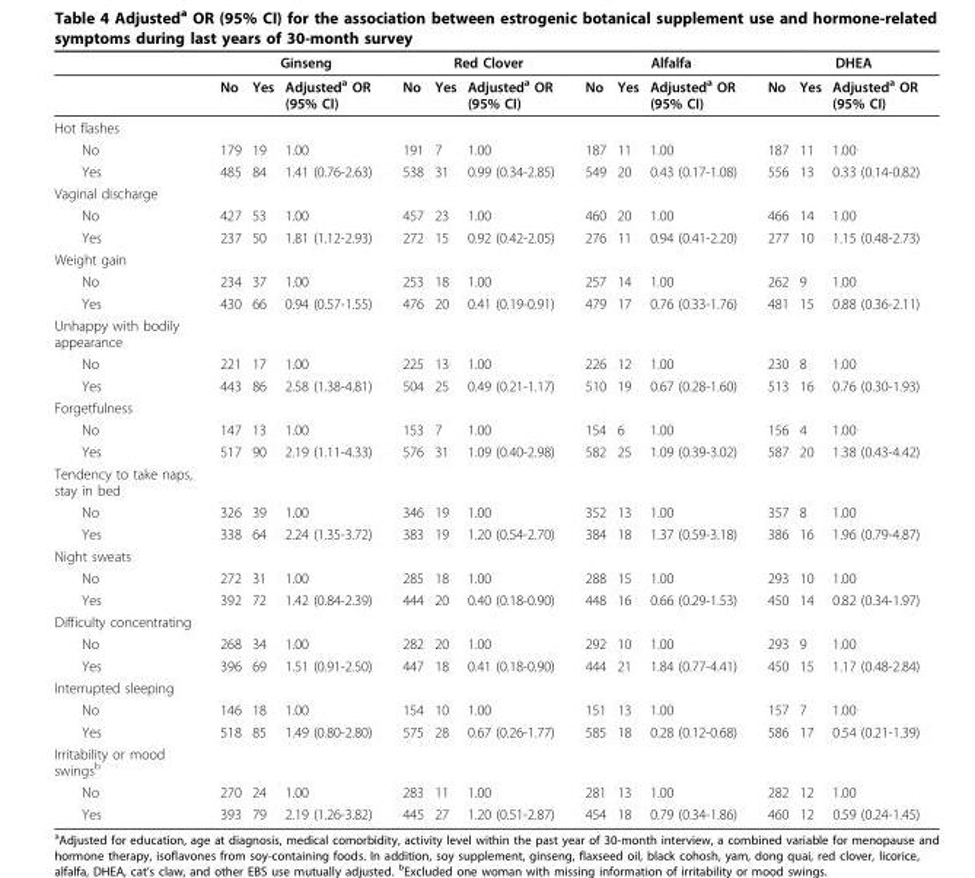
<table><thead><tr><td rowspan="2"></td><td colspan="3">Ginseng</td><td colspan="3">Red Clover</td><td colspan="3">Alfalfa</td><td colspan="3">DHEA</td></tr><tr><td>No</td><td>Yes</td><td>Adjusted<sup>a</sup> OR (95% CI)</td><td>No</td><td>Yes</td><td>Adjusted<sup>a</sup> OR (95% CI)</td><td>No</td><td>Yes</td><td>Adjusted<sup>a</sup> OR (95% CI)</td><td>No</td><td>Yes</td><td>Adjusted<sup>a</sup> OR (95% CI)</td></tr></thead><tbody><tr><td colspan="13">Hot flashes</td></tr><tr><td>No</td><td>179</td><td>19</td><td>1.00</td><td>191</td><td>7</td><td>1.00</td><td>187</td><td>11</td><td>1.00</td><td>187</td><td>11</td><td>1.00</td></tr><tr><td>Yes</td><td>485</td><td>84</td><td>1.41 (0.76-2.63)</td><td>538</td><td>31</td><td>0.99 (0.34-2.85)</td><td>549</td><td>20</td><td>0.43 (0.17-1.08)</td><td>556</td><td>13</td><td>0.33 (0.14-0.82)</td></tr><tr><td colspan="13">Vaginal discharge</td></tr><tr><td>No</td><td>427</td><td>53</td><td>1.00</td><td>457</td><td>23</td><td>1.00</td><td>460</td><td>20</td><td>1.00</td><td>466</td><td>14</td><td>1.00</td></tr><tr><td>Yes</td><td>237</td><td>50</td><td>1.81 (1.12-2.93)</td><td>272</td><td>15</td><td>0.92 (0.42-2.05)</td><td>276</td><td>11</td><td>0.94 (0.41-2.20)</td><td>277</td><td>10</td><td>1.15 (0.48-2.73)</td></tr><tr><td colspan="13">Weight gain</td></tr><tr><td>No</td><td>234</td><td>37</td><td>1.00</td><td>253</td><td>18</td><td>1.00</td><td>257</td><td>14</td><td>1.00</td><td>262</td><td>9</td><td>1.00</td></tr><tr><td>Yes</td><td>430</td><td>66</td><td>0.94 (0.57-1.55)</td><td>476</td><td>20</td><td>0.41 (0.19-0.91)</td><td>479</td><td>17</td><td>0.76 (0.33-1.76)</td><td>481</td><td>15</td><td>0.88 (0.36-2.11)</td></tr><tr><td colspan="13">Unhappy with bodily appearance</td></tr><tr><td>No</td><td>221</td><td>17</td><td>1.00</td><td>225</td><td>13</td><td>1.00</td><td>226</td><td>12</td><td>1.00</td><td>230</td><td>8</td><td>1.00</td></tr><tr><td>Yes</td><td>443</td><td>86</td><td>2.58 (1.38-4.81)</td><td>504</td><td>25</td><td>0.49 (0.21-1.17)</td><td>510</td><td>19</td><td>0.67 (0.28-1.60)</td><td>513</td><td>16</td><td>0.76 (0.30-1.93)</td></tr><tr><td colspan="13">Forgetfulness</td></tr><tr><td>No</td><td>147</td><td>13</td><td>1.00</td><td>153</td><td>7</td><td>1.00</td><td>154</td><td>6</td><td>1.00</td><td>156</td><td>4</td><td>1.00</td></tr><tr><td>Yes</td><td>517</td><td>90</td><td>2.19 (1.11-4.33)</td><td>576</td><td>31</td><td>1.09 (0.40-2.98)</td><td>582</td><td>25</td><td>1.09 (0.39-3.02)</td><td>587</td><td>20</td><td>1.38 (0.43-4.42)</td></tr><tr><td colspan="13">Tendency to take naps, stay in bed</td></tr><tr><td>No</td><td>326</td><td>39</td><td>1.00</td><td>346</td><td>19</td><td>1.00</td><td>352</td><td>13</td><td>1.00</td><td>357</td><td>8</td><td>1.00</td></tr><tr><td>Yes</td><td>338</td><td>64</td><td>2.24 (1.35-3.72)</td><td>383</td><td>19</td><td>1.20 (0.54-2.70)</td><td>384</td><td>18</td><td>1.37 (0.59-3.18)</td><td>386</td><td>16</td><td>1.96 (0.79-4.87)</td></tr><tr><td colspan="13">Night sweats</td></tr><tr><td>No</td><td>272</td><td>31</td><td>1.00</td><td>285</td><td>18</td><td>1.00</td><td>288</td><td>15</td><td>1.00</td><td>293</td><td>10</td><td>1.00</td></tr><tr><td>Yes</td><td>392</td><td>72</td><td>1.42 (0.84-2.39)</td><td>444</td><td>20</td><td>0.40 (0.18-0.90)</td><td>448</td><td>16</td><td>0.66 (0.29-1.53)</td><td>450</td><td>14</td><td>0.82 (0.34-1.97)</td></tr><tr><td colspan="13">Difficulty concentrating</td></tr><tr><td>No</td><td>268</td><td>34</td><td>1.00</td><td>282</td><td>20</td><td>1.00</td><td>292</td><td>10</td><td>1.00</td><td>293</td><td>9</td><td>1.00</td></tr><tr><td>Yes</td><td>396</td><td>69</td><td>1.51 (0.91-2.50)</td><td>447</td><td>18</td><td>0.41 (0.18-0.90)</td><td>444</td><td>21</td><td>1.84 (0.77-4.41)</td><td>450</td><td>15</td><td>1.17 (0.48-2.84)</td></tr><tr><td colspan="13">Interrupted sleeping</td></tr><tr><td>No</td><td>146</td><td>18</td><td>1.00</td><td>154</td><td>10</td><td>1.00</td><td>151</td><td>13</td><td>1.00</td><td>157</td><td>7</td><td>1.00</td></tr><tr><td>Yes</td><td>518</td><td>85</td><td>1.49 (0.80-2.80)</td><td>575</td><td>28</td><td>0.67 (0.26-1.77)</td><td>585</td><td>18</td><td>0.28 (0.12-0.68)</td><td>586</td><td>17</td><td>0.54 (0.21-1.39)</td></tr><tr><td colspan="13">Irritability or mood swings<sup>b</sup></td></tr><tr><td>No</td><td>270</td><td>24</td><td>1.00</td><td>283</td><td>11</td><td>1.00</td><td>281</td><td>13</td><td>1.00</td><td>282</td><td>12</td><td>1.00</td></tr><tr><td>Yes</td><td>393</td><td>79</td><td>2.19 (1.26-3.82)</td><td>445</td><td>27</td><td>1.20 (0.51-2.87)</td><td>454</td><td>18</td><td>0.79 (0.34-1.86)</td><td>460</td><td>12</td><td>0.59 (0.24-1.45)</td></tr></tbody></table>